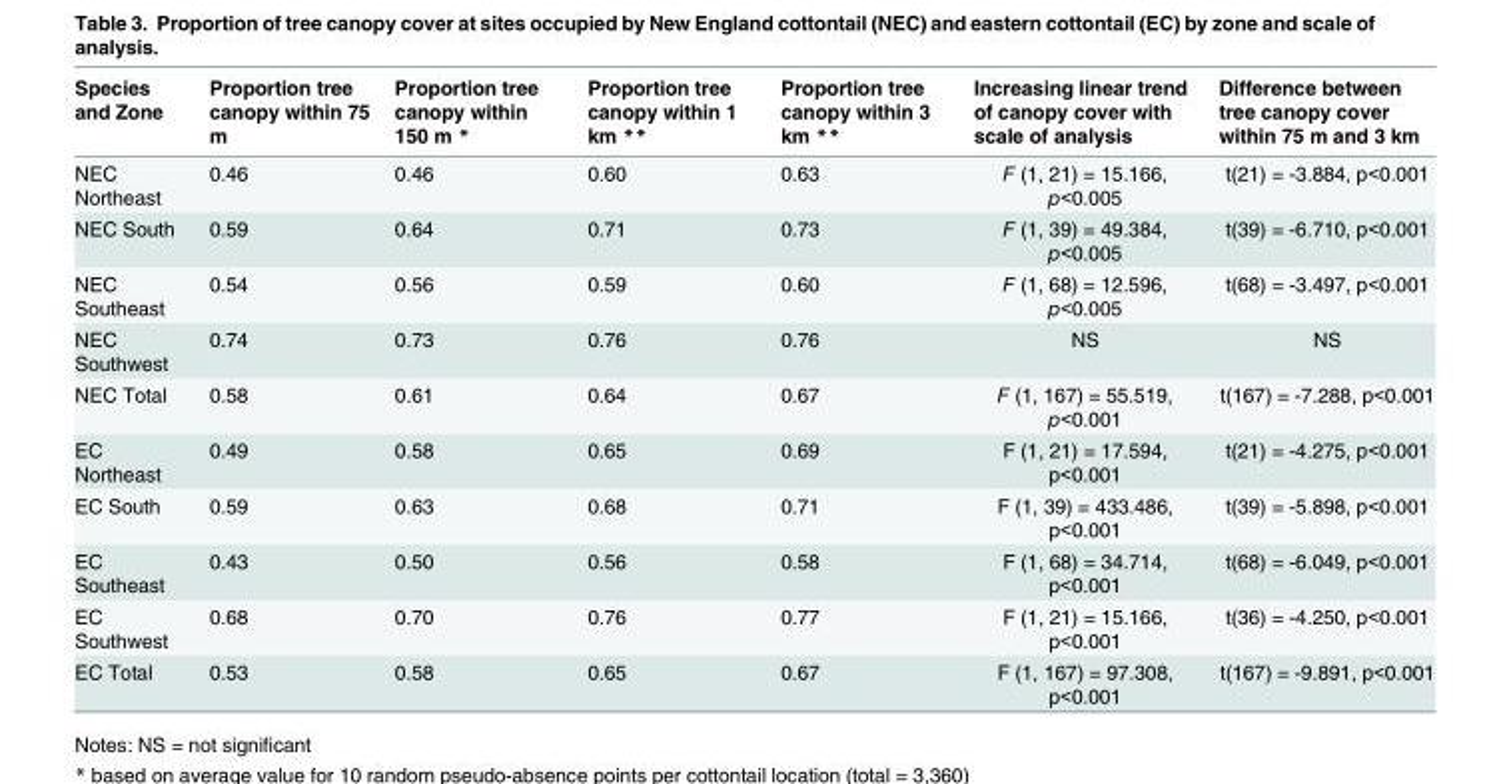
<table><thead><tr><td>Species and Zone</td><td>Proportion tree canopy within 75 m</td><td>Proportion tree canopy within 150 m *</td><td>Proportion tree canopy within 1 km **</td><td>Proportion tree canopy within 3 km **</td><td>Increasing linear trend of canopy cover with scale of analysis</td><td>Difference between tree canopy cover within 75 m and 3 km</td></tr></thead><tbody><tr><td>NEC Northeast</td><td>0.46</td><td>0.46</td><td>0.60</td><td>0.63</td><td>F (1, 21) = 15.166, p&lt;0.005</td><td>t(21) = -3.884, p&lt;0.001</td></tr><tr><td>NEC South</td><td>0.59</td><td>0.64</td><td>0.71</td><td>0.73</td><td>F (1, 39) = 49.384, p&lt;0.005</td><td>t(39) = -6.710, p&lt;0.001</td></tr><tr><td>NEC Southeast</td><td>0.54</td><td>0.56</td><td>0.59</td><td>0.60</td><td>F (1, 68) = 12.596, p&lt;0.005</td><td>t(68) = -3.497, p&lt;0.001</td></tr><tr><td>NEC Southwest</td><td>0.74</td><td>0.73</td><td>0.76</td><td>0.76</td><td>NS</td><td>NS</td></tr><tr><td>NEC Total</td><td>0.58</td><td>0.61</td><td>0.64</td><td>0.67</td><td>F (1, 167) = 55.519, p&lt;0.001</td><td>t(167) = -7.288, p&lt;0.001</td></tr><tr><td>EC Northeast</td><td>0.49</td><td>0.58</td><td>0.65</td><td>0.69</td><td>F (1, 21) = 17.594, p&lt;0.001</td><td>t(21) = -4.275, p&lt;0.001</td></tr><tr><td>EC South</td><td>0.59</td><td>0.63</td><td>0.68</td><td>0.71</td><td>F (1, 39) = 433.486, p&lt;0.001</td><td>t(39) = -5.898, p&lt;0.001</td></tr><tr><td>EC Southeast</td><td>0.43</td><td>0.50</td><td>0.56</td><td>0.58</td><td>F (1, 68) = 34.714, p&lt;0.001</td><td>t(68) = -6.049, p&lt;0.001</td></tr><tr><td>EC Southwest</td><td>0.68</td><td>0.70</td><td>0.76</td><td>0.77</td><td>F (1, 21) = 15.166, p&lt;0.001</td><td>t(36) = -4.250, p&lt;0.001</td></tr><tr><td>EC Total</td><td>0.53</td><td>0.58</td><td>0.65</td><td>0.67</td><td>F (1, 167) = 97.308, p&lt;0.001</td><td>t(167) = -9.891, p&lt;0.001</td></tr></tbody></table>